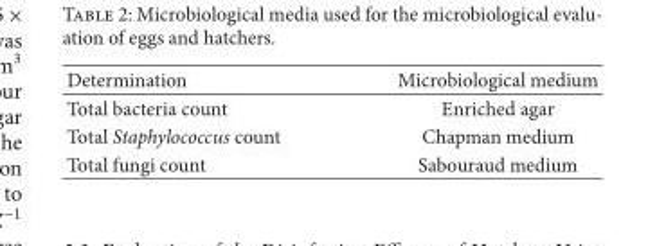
<table><thead><tr><td>Determination</td><td>Microbiological medium</td></tr></thead><tbody><tr><td>Total bacteria count</td><td>Enriched agar</td></tr><tr><td>Total Staphylococcus count</td><td>Chapman medium</td></tr><tr><td>Total fungi count</td><td>Sabouraud medium</td></tr></tbody></table>